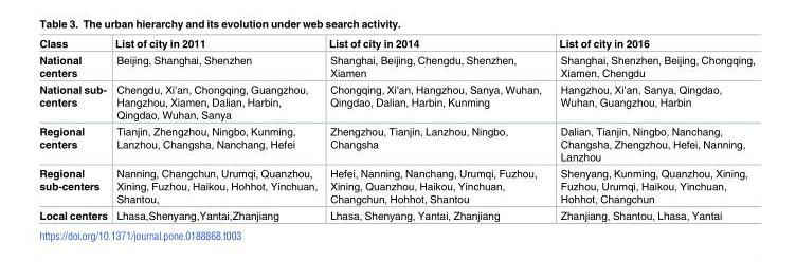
<table><thead><tr><td>Class</td><td>List of city in 2011</td><td>List of city in 2014</td><td>List of city in 2016</td></tr></thead><tbody><tr><td>National centers</td><td>Beijing, Shanghai, Shenzhen</td><td>Shanghai, Beijing, Chengdu, Shenzhen, Xiamen</td><td>Shanghai, Shenzhen, Beijing, Chongqing, Xiamen, Chengdu</td></tr><tr><td>National sub- centers</td><td>Chengdu, Xi’an, Chongqing, Guangzhou, Hangzhou, Xiamen, Dalian, Harbin, Qingdao, Wuhan, Sanya</td><td>Chongqing, Xi’an, Hangzhou, Sanya, Wuhan, Qingdao, Dalian, Harbin, Kunming</td><td>Hangzhou, Xi’an, Sanya, Qingdao, Wuhan, Guangzhou, Harbin</td></tr><tr><td>Regional centers</td><td>Tianjin, Zhengzhou, Ningbo, Kunming, Lanzhou, Changsha, Nanchang, Hefei</td><td>Zhengzhou, Tianjin, Lanzhou, Ningbo, Changsha</td><td>Dalian, Tianjin, Ningbo, Nanchang, Changsha, Zhengzhou, Hefei, Nanning, Lanzhou</td></tr><tr><td>Regional sub-centers</td><td>Nanning, Changchun, Urumqi, Quanzhou, Xining, Fuzhou, Haikou, Hohhot, Yinchuan, Shantou,</td><td>Hefei, Nanning, Nanchang, Urumqi, Fuzhou, Xining, Quanzhou, Haikou, Yinchuan, Changchun, Hohhot, Shantou</td><td>Shenyang, Kunming, Quanzhou, Xining, Fuzhou, Urumqi, Haikou, Yinchuan, Hohhot, Changchun</td></tr><tr><td>Local centers</td><td>Lhasa,Shenyang,Yantai,Zhanjiang</td><td>Lhasa, Shenyang, Yantai, Zhanjiang</td><td>Zhanjiang, Shantou, Lhasa, Yantai</td></tr></tbody></table>